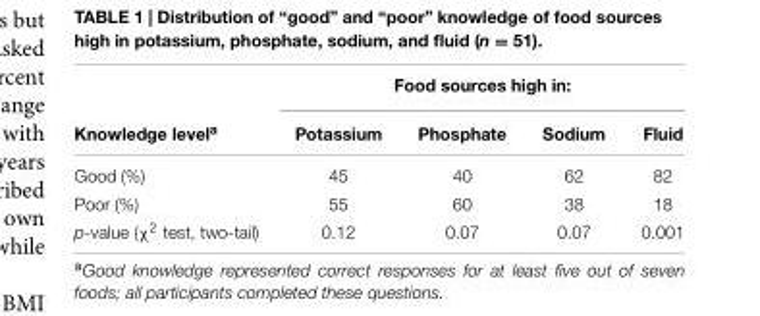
<table><thead><tr><td rowspan="2">Knowledge level<sup>a</sup></td><td colspan="4">Food sources high in:</td></tr><tr><td>Potassium</td><td>Phosphate</td><td>Sodium</td><td>Fluid</td></tr></thead><tbody><tr><td>Good (%)</td><td>45</td><td>40</td><td>62</td><td>82</td></tr><tr><td>Poor (%)</td><td>55</td><td>60</td><td>38</td><td>18</td></tr><tr><td>p-value (χ<sup>2</sup> test, two-tail)</td><td>0.12</td><td>0.07</td><td>0.07</td><td>0.001</td></tr></tbody></table>